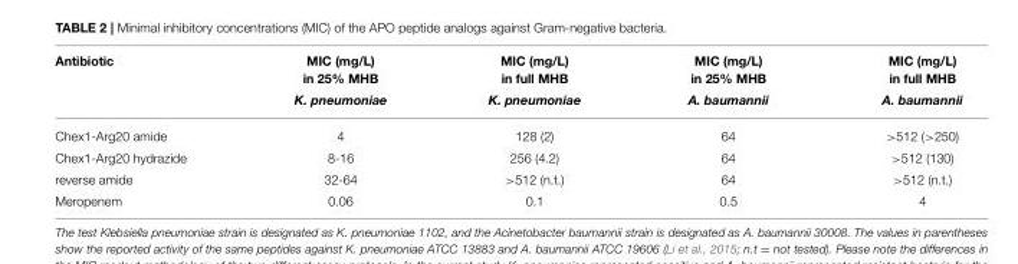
<table><thead><tr><td rowspan="2">Antibiotic</td><td rowspan="2">MIC (mg/L) in 25% MHB K. pneumoniae</td><td rowspan="2">MIC (mg/L) in full MHB K. pneumoniae</td><td rowspan="2">MIC (mg/L) in 25% MHB A. baumannii</td><td rowspan="2">MIC (mg/L) in full MHB A. baumannii</td></tr><tr></tr></thead><tbody><tr><td>Chex1-Arg20 amide</td><td>4</td><td>128 (2)</td><td>64</td><td>&gt;512 (&gt;250)</td></tr><tr><td>Chex1-Arg20 hydrazide</td><td>8-16</td><td>256 (4.2)</td><td>64</td><td>&gt;512 (130)</td></tr><tr><td>reverse amide</td><td>32-64</td><td>&gt;512 (n.t.)</td><td>64</td><td>&gt;512 (n.t.)</td></tr><tr><td>Meropenem</td><td>0.06</td><td>0.1</td><td>0.5</td><td>4</td></tr></tbody></table>